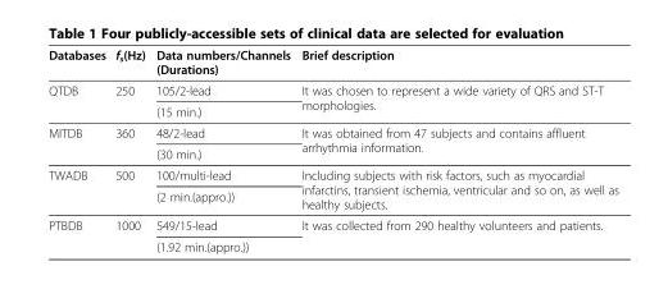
<table><thead><tr><td>Databases</td><td>f<sub>s</sub>(Hz)</td><td>Data numbers/Channels (Durations)</td><td>Brief description</td></tr></thead><tbody><tr><td rowspan="2">QTDB</td><td rowspan="2">250</td><td>105/2-lead</td><td rowspan="2">It was chosen to represent a wide variety of QRS and ST-T morphologies.</td></tr><tr><td>(15 min.)</td></tr><tr><td rowspan="2">MITDB</td><td rowspan="2">360</td><td>48/2-lead</td><td rowspan="2">It was obtained from 47 subjects and contains affluent arrhythmia information.</td></tr><tr><td>(30 min.)</td></tr><tr><td rowspan="2">TWADB</td><td rowspan="2">500</td><td>100/multi-lead</td><td rowspan="2">Including subjects with risk factors, such as myocardial infarctins, transient ischemia, ventricular and so on, as well as healthy subjects.</td></tr><tr><td>(2 min.(appro.))</td></tr><tr><td rowspan="2">PTBDB</td><td>1000</td><td>549/15-lead</td><td>It was collected from 290 healthy volunteers and patients.</td></tr><tr><td></td><td>(1.92 min.(appro.))</td><td></td></tr></tbody></table>